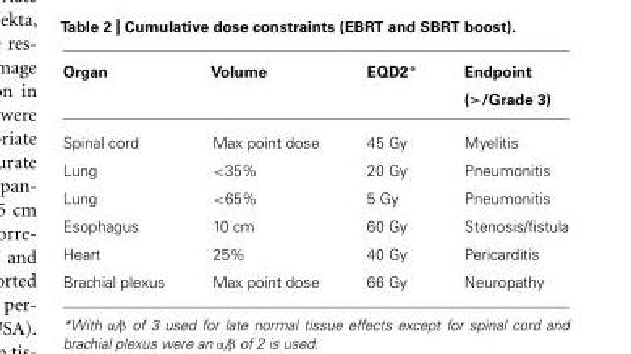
<table><thead><tr><td>Organ</td><td>Volume</td><td>EQD2*</td><td>Endpoint (&gt;/Grade 3)</td></tr></thead><tbody><tr><td>Spinal cord</td><td>Max point dose</td><td>45 Gy</td><td>Myelitis</td></tr><tr><td>Lung</td><td>&lt;35%</td><td>20 Gy</td><td>Pneumonitis</td></tr><tr><td>Lung</td><td>&lt;65%</td><td>5 Gy</td><td>Pneumonitis</td></tr><tr><td>Esophagus</td><td>10 cm</td><td>60 Gy</td><td>Stenosis/fistula</td></tr><tr><td>Heart</td><td>25%</td><td>40 Gy</td><td>Pericarditis</td></tr><tr><td>Brachial plexus</td><td>Max point dose</td><td>66 Gy</td><td>Neuropathy</td></tr></tbody></table>